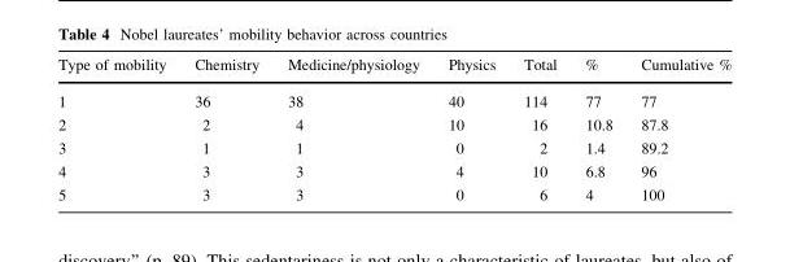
<table><thead><tr><td>Type of mobility</td><td>Chemistry</td><td>Medicine/physiology</td><td>Physics</td><td>Total</td><td>%</td><td>Cumulative %</td></tr></thead><tbody><tr><td>1</td><td>36</td><td>38</td><td>40</td><td>114</td><td>77</td><td>77</td></tr><tr><td>2</td><td>2</td><td>4</td><td>10</td><td>16</td><td>10.8</td><td>87.8</td></tr><tr><td>3</td><td>1</td><td>1</td><td>0</td><td>2</td><td>1.4</td><td>89.2</td></tr><tr><td>4</td><td>3</td><td>3</td><td>4</td><td>10</td><td>6.8</td><td>96</td></tr><tr><td>5</td><td>3</td><td>3</td><td>0</td><td>6</td><td>4</td><td>100</td></tr></tbody></table>